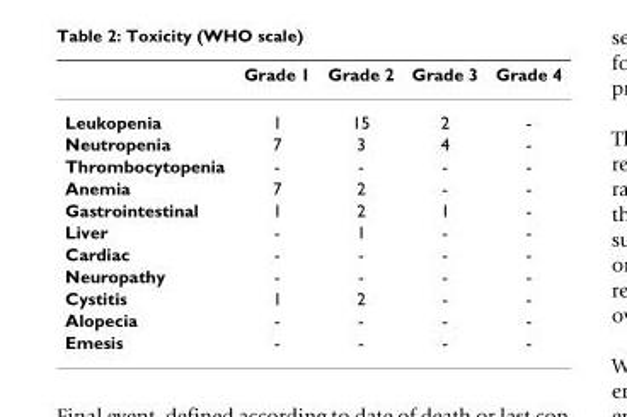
<table><thead><tr><td></td><td>Grade 1</td><td>Grade 2</td><td>Grade 3</td><td>Grade 4</td></tr></thead><tbody><tr><td>Leukopenia</td><td>1</td><td>15</td><td>2</td><td>-</td></tr><tr><td>Neutropenia</td><td>7</td><td>3</td><td>4</td><td>-</td></tr><tr><td>Thrombocytopenia</td><td>-</td><td>-</td><td>-</td><td>-</td></tr><tr><td>Anemia</td><td>7</td><td>2</td><td>-</td><td>-</td></tr><tr><td>Gastrointestinal</td><td>1</td><td>2</td><td>1</td><td>-</td></tr><tr><td>Liver</td><td>-</td><td>1</td><td>-</td><td>-</td></tr><tr><td>Cardiac</td><td>-</td><td>-</td><td>-</td><td>-</td></tr><tr><td>Neuropathy</td><td>-</td><td>-</td><td>-</td><td>-</td></tr><tr><td>Cystitis</td><td>1</td><td>2</td><td>-</td><td>-</td></tr><tr><td>Alopecia</td><td>-</td><td>-</td><td>-</td><td>-</td></tr><tr><td>Emesis</td><td>-</td><td>-</td><td>-</td><td>-</td></tr></tbody></table>